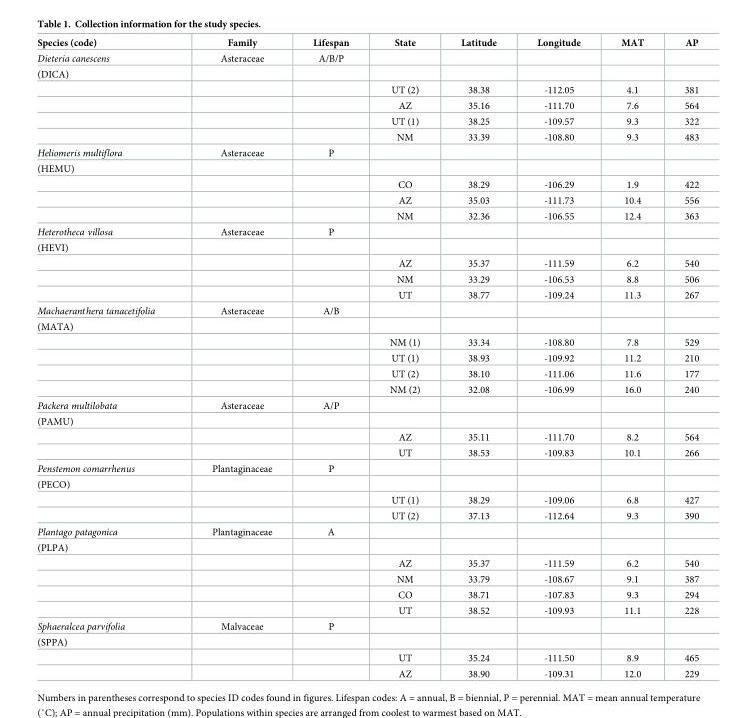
<table><thead><tr><td>Species (code)</td><td>Family</td><td>Lifespan</td><td>State</td><td>Latitude</td><td>Longitude</td><td>MAT</td><td>AP</td></tr></thead><tbody><tr><td>Dieteria canescens</td><td>Asteraceae</td><td>A/B/P</td><td></td><td></td><td></td><td></td><td></td></tr><tr><td colspan="8">(DICA)</td></tr><tr><td></td><td></td><td></td><td>UT (2)</td><td>38.38</td><td>-112.05</td><td>4.1</td><td>381</td></tr><tr><td></td><td></td><td></td><td>AZ</td><td>35.16</td><td>-111.70</td><td>7.6</td><td>564</td></tr><tr><td></td><td></td><td></td><td>UT (1)</td><td>38.25</td><td>-109.57</td><td>9.3</td><td>322</td></tr><tr><td></td><td></td><td></td><td>NM</td><td>33.39</td><td>-108.80</td><td>9.3</td><td>483</td></tr><tr><td>Heliomeris multiflora</td><td>Asteraceae</td><td>P</td><td></td><td></td><td></td><td></td><td></td></tr><tr><td colspan="8">(HEMU)</td></tr><tr><td></td><td></td><td></td><td>CO</td><td>38.29</td><td>-106.29</td><td>1.9</td><td>422</td></tr><tr><td></td><td></td><td></td><td>AZ</td><td>35.03</td><td>-111.73</td><td>10.4</td><td>556</td></tr><tr><td></td><td></td><td></td><td>NM</td><td>32.36</td><td>-106.55</td><td>12.4</td><td>363</td></tr><tr><td>Heterotheca villosa</td><td>Asteraceae</td><td>P</td><td></td><td></td><td></td><td></td><td></td></tr><tr><td colspan="8">(HEVI)</td></tr><tr><td></td><td></td><td></td><td>AZ</td><td>35.37</td><td>-111.59</td><td>6.2</td><td>540</td></tr><tr><td></td><td></td><td></td><td>NM</td><td>33.29</td><td>-106.53</td><td>8.8</td><td>506</td></tr><tr><td></td><td></td><td></td><td>UT</td><td>38.77</td><td>-109.24</td><td>11.3</td><td>267</td></tr><tr><td>Machaeranthera tanacetifolia</td><td>Asteraceae</td><td>A/B</td><td></td><td></td><td></td><td></td><td></td></tr><tr><td colspan="8">(MATA)</td></tr><tr><td></td><td></td><td></td><td>NM (1)</td><td>33.34</td><td>-108.80</td><td>7.8</td><td>529</td></tr><tr><td></td><td></td><td></td><td>UT (1)</td><td>38.93</td><td>-109.92</td><td>11.2</td><td>210</td></tr><tr><td></td><td></td><td></td><td>UT (2)</td><td>38.10</td><td>-111.06</td><td>11.6</td><td>177</td></tr><tr><td></td><td></td><td></td><td>NM (2)</td><td>32.08</td><td>-106.99</td><td>16.0</td><td>240</td></tr><tr><td>Packera multilobata</td><td>Asteraceae</td><td>A/P</td><td></td><td></td><td></td><td></td><td></td></tr><tr><td colspan="8">(PAMU)</td></tr><tr><td></td><td></td><td></td><td>AZ</td><td>35.11</td><td>-111.70</td><td>8.2</td><td>564</td></tr><tr><td></td><td></td><td></td><td>UT</td><td>38.53</td><td>-109.83</td><td>10.1</td><td>266</td></tr><tr><td>Penstemon comarrhenus</td><td>Plantaginaceae</td><td>P</td><td></td><td></td><td></td><td></td><td></td></tr><tr><td colspan="8">(PECO)</td></tr><tr><td></td><td></td><td></td><td>UT (1)</td><td>38.29</td><td>-109.06</td><td>6.8</td><td>427</td></tr><tr><td></td><td></td><td></td><td>UT (2)</td><td>37.13</td><td>-112.64</td><td>9.3</td><td>390</td></tr><tr><td>Plantago patagonica</td><td>Plantaginaceae</td><td>A</td><td></td><td></td><td></td><td></td><td></td></tr><tr><td colspan="8">(PLPA)</td></tr><tr><td></td><td></td><td></td><td>AZ</td><td>35.37</td><td>-111.59</td><td>6.2</td><td>540</td></tr><tr><td></td><td></td><td></td><td>NM</td><td>33.79</td><td>-108.67</td><td>9.1</td><td>387</td></tr><tr><td></td><td></td><td></td><td>CO</td><td>38.71</td><td>-107.83</td><td>9.3</td><td>294</td></tr><tr><td></td><td></td><td></td><td>UT</td><td>38.52</td><td>-109.93</td><td>11.1</td><td>228</td></tr><tr><td>Sphaeralcea parvifolia</td><td>Malvaceae</td><td>P</td><td></td><td></td><td></td><td></td><td></td></tr><tr><td colspan="8">(SPPA)</td></tr><tr><td></td><td></td><td></td><td>UT</td><td>35.24</td><td>-111.50</td><td>8.9</td><td>465</td></tr><tr><td></td><td></td><td></td><td>AZ</td><td>38.90</td><td>-109.31</td><td>12.0</td><td>229</td></tr></tbody></table>